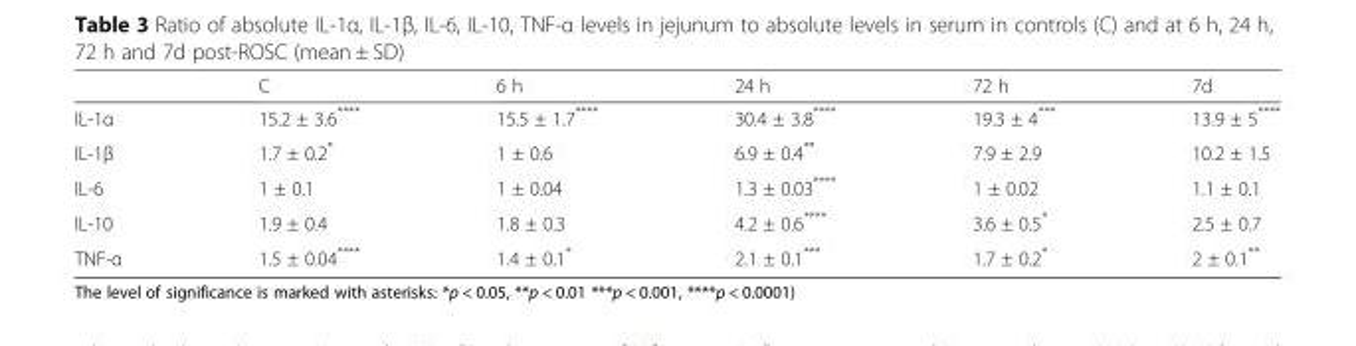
<table><thead><tr><td></td><td>C</td><td>6 h</td><td>24 h</td><td>72 h</td><td>7d</td></tr></thead><tbody><tr><td>IL-1α</td><td>15.2 ± 3.6****</td><td>15.5 ± 1.7****</td><td>30.4 ± 3.8****</td><td>19.3 ± 4***</td><td>13.9 ± 5****</td></tr><tr><td>IL-1β</td><td>1.7 ± 0.2*</td><td>1 ± 0.6</td><td>6.9 ± 0.4**</td><td>7.9 ± 2.9</td><td>10.2 ± 1.5</td></tr><tr><td>IL-6</td><td>1 ± 0.1</td><td>1 ± 0.04</td><td>1.3 ± 0.03****</td><td>1 ± 0.02</td><td>1.1 ± 0.1</td></tr><tr><td>IL-10</td><td>1.9 ± 0.4</td><td>1.8 ± 0.3</td><td>4.2 ± 0.6****</td><td>3.6 ± 0.5*</td><td>2.5 ± 0.7</td></tr><tr><td>TNF-α</td><td>1.5 ± 0.04****</td><td>1.4 ± 0.1*</td><td>2.1 ± 0.1***</td><td>1.7 ± 0.2*</td><td>2 ± 0.1**</td></tr></tbody></table>